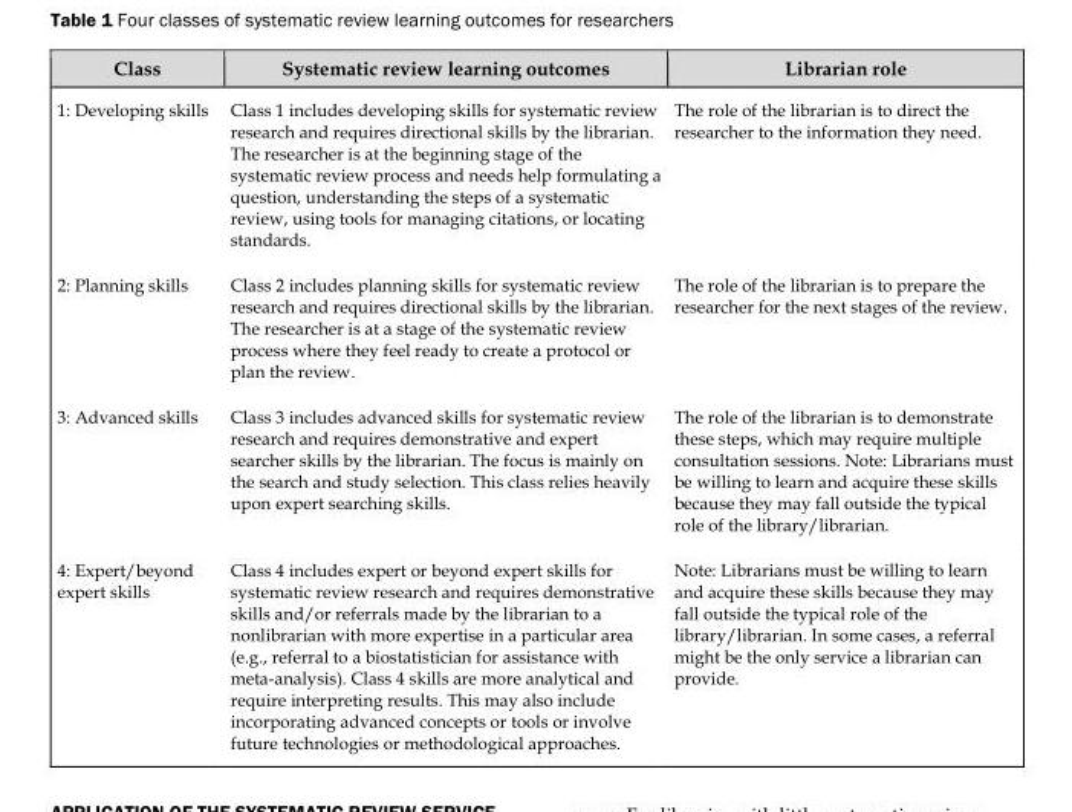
<table><thead><tr><td>Class</td><td>Systematic review learning outcomes</td><td>Librarian role</td></tr></thead><tbody><tr><td>1: Developing skills</td><td>Class 1 includes developing skills for systematic review research and requires directional skills by the librarian. The researcher is at the beginning stage of the systematic review process and needs help formulating a question, understanding the steps of a systematic review, using tools for managing citations, or locating standards.</td><td>The role of the librarian is to direct the researcher to the information they need.</td></tr><tr><td>2: Planning skills</td><td>Class 2 includes planning skills for systematic review research and requires directional skills by the librarian. The researcher is at a stage of the systematic review process where they feel ready to create a protocol or plan the review.</td><td>The role of the librarian is to prepare the researcher for the next stages of the review.</td></tr><tr><td>3: Advanced skills</td><td>Class 3 includes advanced skills for systematic review research and requires demonstrative and expert searcher skills by the librarian. The focus is mainly on the search and study selection. This class relies heavily upon expert searching skills.</td><td>The role of the librarian is to demonstrate these steps, which may require multiple consultation sessions. Note: Librarians must be willing to learn and acquire these skills because they may fall outside the typical role of the library/librarian.</td></tr><tr><td>4: Expert/beyond expert skills</td><td>Class 4 includes expert or beyond expert skills for systematic review research and requires demonstrative skills and/or referrals made by the librarian to a nonlibrarian with more expertise in a particular area (e.g., referral to a biostatistician for assistance with meta-analysis). Class 4 skills are more analytical and require interpreting results. This may also include incorporating advanced concepts or tools or involve future technologies or methodological approaches.</td><td>Note: Librarians must be willing to learn and acquire these skills because they may fall outside the typical role of the library/librarian. In some cases, a referral might be the only service a librarian can provide.</td></tr></tbody></table>